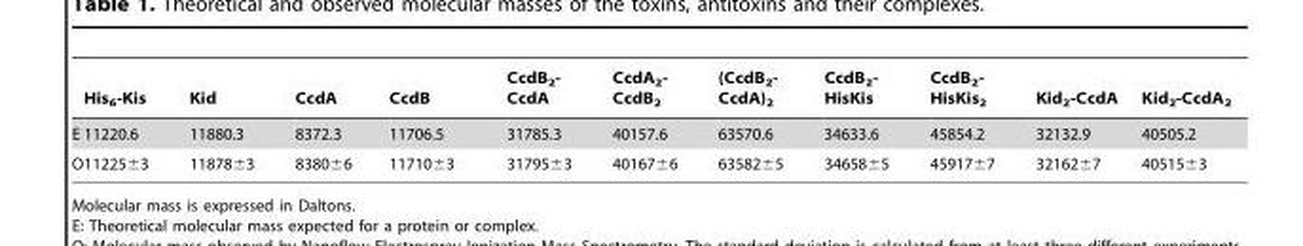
<table><thead><tr><td>His<sub>6</sub>-Kis</td><td>Kid</td><td>CcdA</td><td>CcdB</td><td>CcdB<sub>2</sub>- CcdA</td><td>CcdA<sub>2</sub>- CcdB<sub>2</sub></td><td>(CcdB<sub>2</sub>- CcdA)<sub>2</sub></td><td>CcdB<sub>2</sub>- HisKis</td><td>CcdB<sub>2</sub>- HisKis<sub>2</sub></td><td>Kid<sub>2</sub>-CcdA</td><td>Kid<sub>2</sub>-CcdA<sub>2</sub></td></tr></thead><tbody><tr><td>E 11220.6</td><td>11880.3</td><td>8372.3</td><td>11706.5</td><td>31785.3</td><td>40157.6</td><td>63570.6</td><td>34633.6</td><td>45854.2</td><td>32132.9</td><td>40505.2</td></tr><tr><td>O11225±3</td><td>11878±3</td><td>8380±6</td><td>11710±3</td><td>31795±3</td><td>40167±6</td><td>63582±5</td><td>34658±5</td><td>45917±7</td><td>32162±7</td><td>40515±3</td></tr></tbody></table>